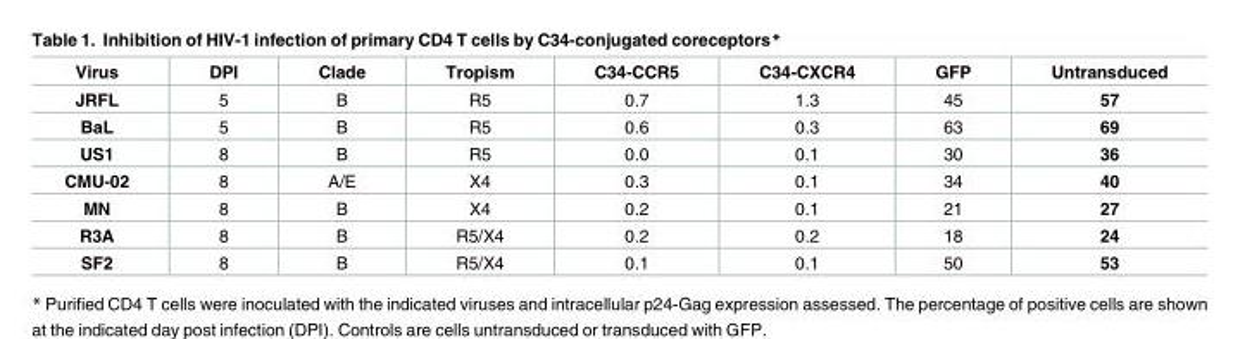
<table><thead><tr><td>Virus</td><td>DPI</td><td>Clade</td><td>Tropism</td><td>C34-CCR5</td><td>C34-CXCR4</td><td>GFP</td><td>Untransduced</td></tr></thead><tbody><tr><td>JRFL</td><td>5</td><td>B</td><td>R5</td><td>0.7</td><td>1.3</td><td>45</td><td>57</td></tr><tr><td>BaL</td><td>5</td><td>B</td><td>R5</td><td>0.6</td><td>0.3</td><td>63</td><td>69</td></tr><tr><td>US1</td><td>8</td><td>B</td><td>R5</td><td>0.0</td><td>0.1</td><td>30</td><td>36</td></tr><tr><td>CMU-02</td><td>8</td><td>A/E</td><td>X4</td><td>0.3</td><td>0.1</td><td>34</td><td>40</td></tr><tr><td>MN</td><td>8</td><td>B</td><td>X4</td><td>0.2</td><td>0.1</td><td>21</td><td>27</td></tr><tr><td>R3A</td><td>8</td><td>B</td><td>R5/X4</td><td>0.2</td><td>0.2</td><td>18</td><td>24</td></tr><tr><td>SF2</td><td>8</td><td>B</td><td>R5/X4</td><td>0.1</td><td>0.1</td><td>50</td><td>53</td></tr></tbody></table>